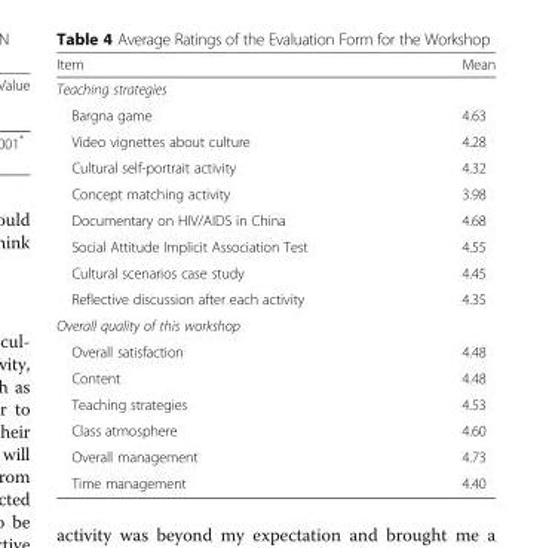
<table><thead><tr><td>Item</td><td>Mean</td></tr></thead><tbody><tr><td colspan="2">Teaching strategies</td></tr><tr><td>Bargna game</td><td>4.63</td></tr><tr><td>Video vignettes about culture</td><td>4.28</td></tr><tr><td>Cultural self-portrait activity</td><td>4.32</td></tr><tr><td>Concept matching activity</td><td>3.98</td></tr><tr><td>Documentary on HIV/AIDS in China</td><td>4.68</td></tr><tr><td>Social Attitude Implicit Association Test</td><td>4.55</td></tr><tr><td>Cultural scenarios case study</td><td>4.45</td></tr><tr><td>Reflective discussion after each activity</td><td>4.35</td></tr><tr><td colspan="2">Overall quality of this workshop</td></tr><tr><td>Overall satisfaction</td><td>4.48</td></tr><tr><td>Content</td><td>4.48</td></tr><tr><td>Teaching strategies</td><td>4.53</td></tr><tr><td>Class atmosphere</td><td>4.60</td></tr><tr><td>Overall management</td><td>4.73</td></tr><tr><td>Time management</td><td>4.40</td></tr></tbody></table>